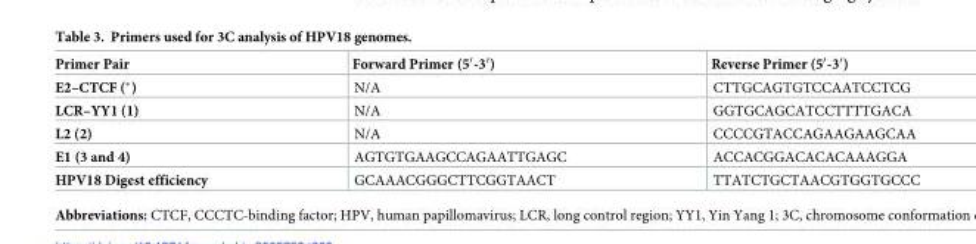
<table><thead><tr><td>Primer Pair</td><td>Forward Primer (5′-3′)</td><td>Reverse Primer (5′-3′)</td></tr></thead><tbody><tr><td>E2–CTCF (*)</td><td>N/A</td><td>CTTGCAGTGTCCAATCCTCG</td></tr><tr><td>LCR–YY1 (1)</td><td>N/A</td><td>GGTGCAGCATCCTTTTGACA</td></tr><tr><td>L2 (2)</td><td>N/A</td><td>CCCCGTACCAGAAGAAGCAA</td></tr><tr><td>E1 (3 and 4)</td><td>AGTGTGAAGCCAGAATTGAGC</td><td>ACCACGGACACACAAAGGA</td></tr><tr><td>HPV18 Digest efficiency</td><td>GCAAACGGGCTTCGGTAACT</td><td>TTATCTGCTAACGTGGTGCCC</td></tr></tbody></table>